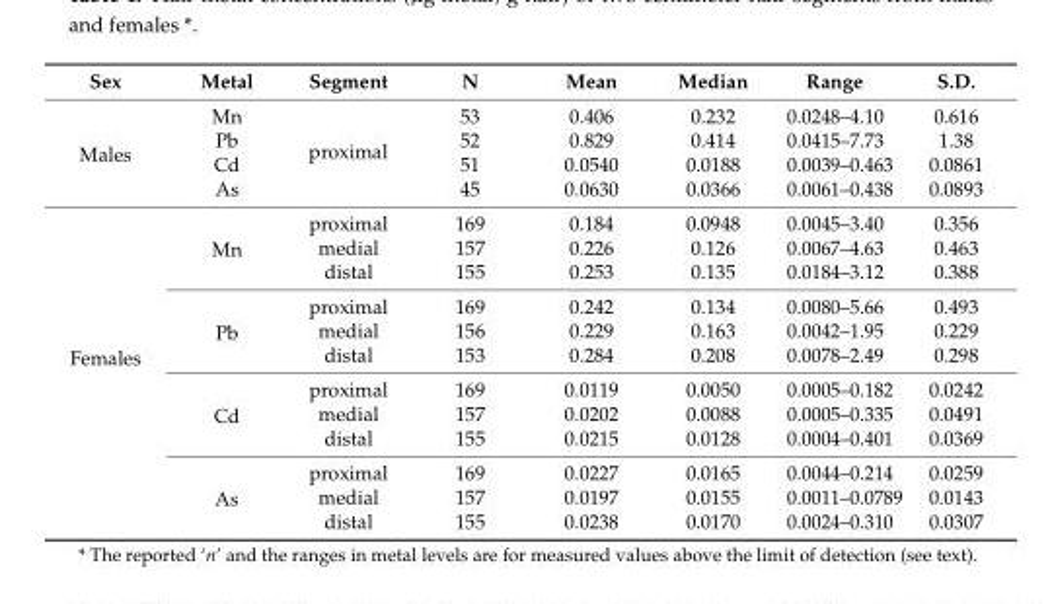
<table><thead><tr><td>Sex</td><td>Metal</td><td>Segment</td><td>N</td><td>Mean</td><td>Median</td><td>Range</td><td>S.D.</td></tr></thead><tbody><tr><td rowspan="4">Males</td><td>Mn</td><td rowspan="4">proximal</td><td>53</td><td>0.406</td><td>0.232</td><td>0.0248–4.10</td><td>0.616</td></tr><tr><td>Pb</td><td>52</td><td>0.829</td><td>0.414</td><td>0.0415–7.73</td><td>1.38</td></tr><tr><td>Cd</td><td>51</td><td>0.0540</td><td>0.0188</td><td>0.0039–0.463</td><td>0.0861</td></tr><tr><td>As</td><td>45</td><td>0.0630</td><td>0.0366</td><td>0.0061–0.438</td><td>0.0893</td></tr><tr><td rowspan="12">Females</td><td rowspan="3">Mn</td><td>proximal</td><td>169</td><td>0.184</td><td>0.0948</td><td>0.0045–3.40</td><td>0.356</td></tr><tr><td>medial</td><td>157</td><td>0.226</td><td>0.126</td><td>0.0067–4.63</td><td>0.463</td></tr><tr><td>distal</td><td>155</td><td>0.253</td><td>0.135</td><td>0.0184–3.12</td><td>0.388</td></tr><tr><td rowspan="3">Pb</td><td>proximal</td><td>169</td><td>0.242</td><td>0.134</td><td>0.0080–5.66</td><td>0.493</td></tr><tr><td>medial</td><td>156</td><td>0.229</td><td>0.163</td><td>0.0042–1.95</td><td>0.229</td></tr><tr><td>distal</td><td>153</td><td>0.284</td><td>0.208</td><td>0.0078–2.49</td><td>0.298</td></tr><tr><td rowspan="3">Cd</td><td>proximal</td><td>169</td><td>0.0119</td><td>0.0050</td><td>0.0005–0.182</td><td>0.0242</td></tr><tr><td>medial</td><td>157</td><td>0.0202</td><td>0.0088</td><td>0.0005–0.335</td><td>0.0491</td></tr><tr><td>distal</td><td>155</td><td>0.0215</td><td>0.0128</td><td>0.0004–0.401</td><td>0.0369</td></tr><tr><td rowspan="3">As</td><td>proximal</td><td>169</td><td>0.0227</td><td>0.0165</td><td>0.0044–0.214</td><td>0.0259</td></tr><tr><td>medial</td><td>157</td><td>0.0197</td><td>0.0155</td><td>0.0011–0.0789</td><td>0.0143</td></tr><tr><td>distal</td><td>155</td><td>0.0238</td><td>0.0170</td><td>0.0024–0.310</td><td>0.0307</td></tr></tbody></table>